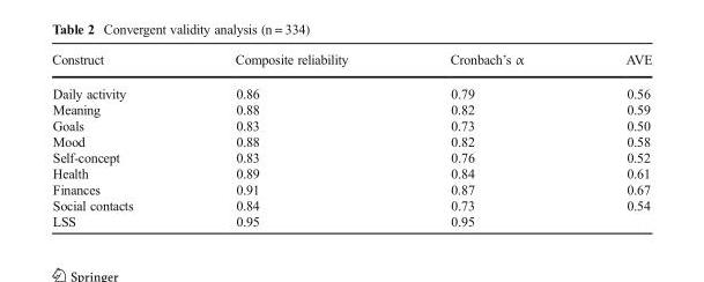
<table><thead><tr><td>Construct</td><td>Composite reliability</td><td>Cronbach’s α</td><td>AVE</td></tr></thead><tbody><tr><td>Daily activity</td><td>0.86</td><td>0.79</td><td>0.56</td></tr><tr><td>Meaning</td><td>0.88</td><td>0.82</td><td>0.59</td></tr><tr><td>Goals</td><td>0.83</td><td>0.73</td><td>0.50</td></tr><tr><td>Mood</td><td>0.88</td><td>0.82</td><td>0.58</td></tr><tr><td>Self-concept</td><td>0.83</td><td>0.76</td><td>0.52</td></tr><tr><td>Health</td><td>0.89</td><td>0.84</td><td>0.61</td></tr><tr><td>Finances</td><td>0.91</td><td>0.87</td><td>0.67</td></tr><tr><td>Social contacts</td><td>0.84</td><td>0.73</td><td>0.54</td></tr><tr><td>LSS</td><td>0.95</td><td>0.95</td><td></td></tr></tbody></table>